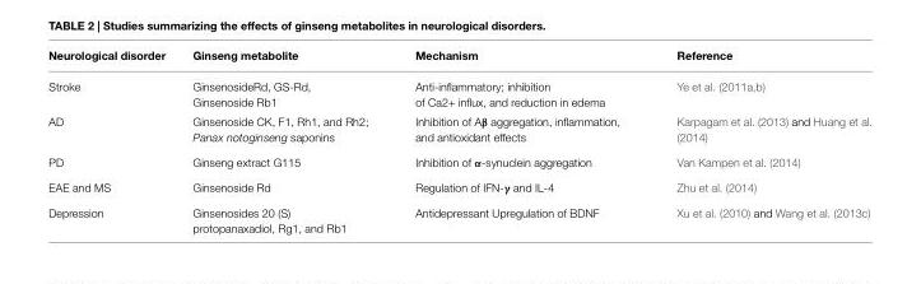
<table><thead><tr><td>Neurological disorder</td><td>Ginseng metabolite</td><td>Mechanism</td><td>Reference</td></tr></thead><tbody><tr><td>Stroke</td><td>GinsenosideRd, GS-Rd, Ginsenoside Rb1</td><td>Anti-inflammatory; inhibition of Ca2+ influx, and reduction in edema</td><td>Ye et al. (2011a,b)</td></tr><tr><td>AD</td><td>Ginsenoside CK, F1, Rh1, and Rh2; Panax notoginseng saponins</td><td>Inhibition of Aβ aggregation, inflammation, and antioxidant effects</td><td>Karpagam et al. (2013) and Huang et al. (2014)</td></tr><tr><td>PD</td><td>Ginseng extract G115</td><td>Inhibition of α-synuclein aggregation</td><td>Van Kampen et al. (2014)</td></tr><tr><td>EAE and MS</td><td>Ginsenoside Rd</td><td>Regulation of IFN-γ and IL-4</td><td>Zhu et al. (2014)</td></tr><tr><td>Depression</td><td>Ginsenosides 20 (S) protopanaxadiol, Rg1, and Rb1</td><td>Antidepressant Upregulation of BDNF</td><td>Xu et al. (2010) and Wang et al. (2013c)</td></tr></tbody></table>